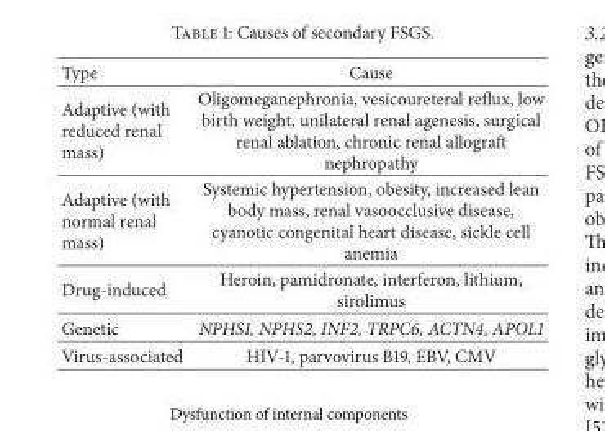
<table><thead><tr><td>Type</td><td>Cause</td></tr></thead><tbody><tr><td>Adaptive (with reduced renal mass)</td><td>Oligomeganephronia, vesicoureteral reflux, low birth weight, unilateral renal agenesis, surgical renal ablation, chronic renal allograft nephropathy</td></tr><tr><td>Adaptive (with normal renal mass)</td><td>Systemic hypertension, obesity, increased lean body mass, renal vasoocclusive disease, cyanotic congenital heart disease, sickle cell anemia</td></tr><tr><td>Drug-induced</td><td>Heroin, pamidronate, interferon, lithium, sirolimus</td></tr><tr><td>Genetic</td><td>NPHS1, NPHS2, INF2, TRPC6, ACTN4, APOL1</td></tr><tr><td>Virus-associated</td><td>HIV-1, parvovirus B19, EBV, CMV</td></tr></tbody></table>